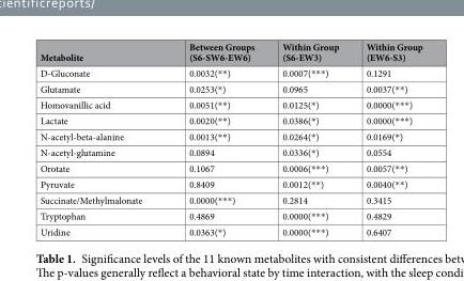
<table><thead><tr><td>Metabolite</td><td>Between Groups (S6-SW6-EW6)</td><td>Within Group (S6-EW3)</td><td>Within Group (EW6-S3)</td></tr></thead><tbody><tr><td>D-Gluconate</td><td>0.0032(**)</td><td>0.0007(***)</td><td>0.1291</td></tr><tr><td>Glutamate</td><td>0.0253(*)</td><td>0.0965</td><td>0.0037(**)</td></tr><tr><td>Homovanillic acid</td><td>0.0051(**)</td><td>0.0125(*)</td><td>0.0000(***)</td></tr><tr><td>Lactate</td><td>0.0020(**)</td><td>0.0386(*)</td><td>0.0000(***)</td></tr><tr><td>N-acetyl-beta-alanine</td><td>0.0013(**)</td><td>0.0264(*)</td><td>0.0169(*)</td></tr><tr><td>N-acetyl-glutamine</td><td>0.0894</td><td>0.0336(*)</td><td>0.0554</td></tr><tr><td>Orotate</td><td>0.1067</td><td>0.0006(***)</td><td>0.0057(**)</td></tr><tr><td>Pyruvate</td><td>0.8409</td><td>0.0012(**)</td><td>0.0040(**)</td></tr><tr><td>Succinate/Methylmalonate</td><td>0.0000(***)</td><td>0.2814</td><td>0.3415</td></tr><tr><td>Tryptophan</td><td>0.4869</td><td>0.0000(***)</td><td>0.4829</td></tr><tr><td>Uridine</td><td>0.0363(*)</td><td>0.0000(***)</td><td>0.6407</td></tr></tbody></table>